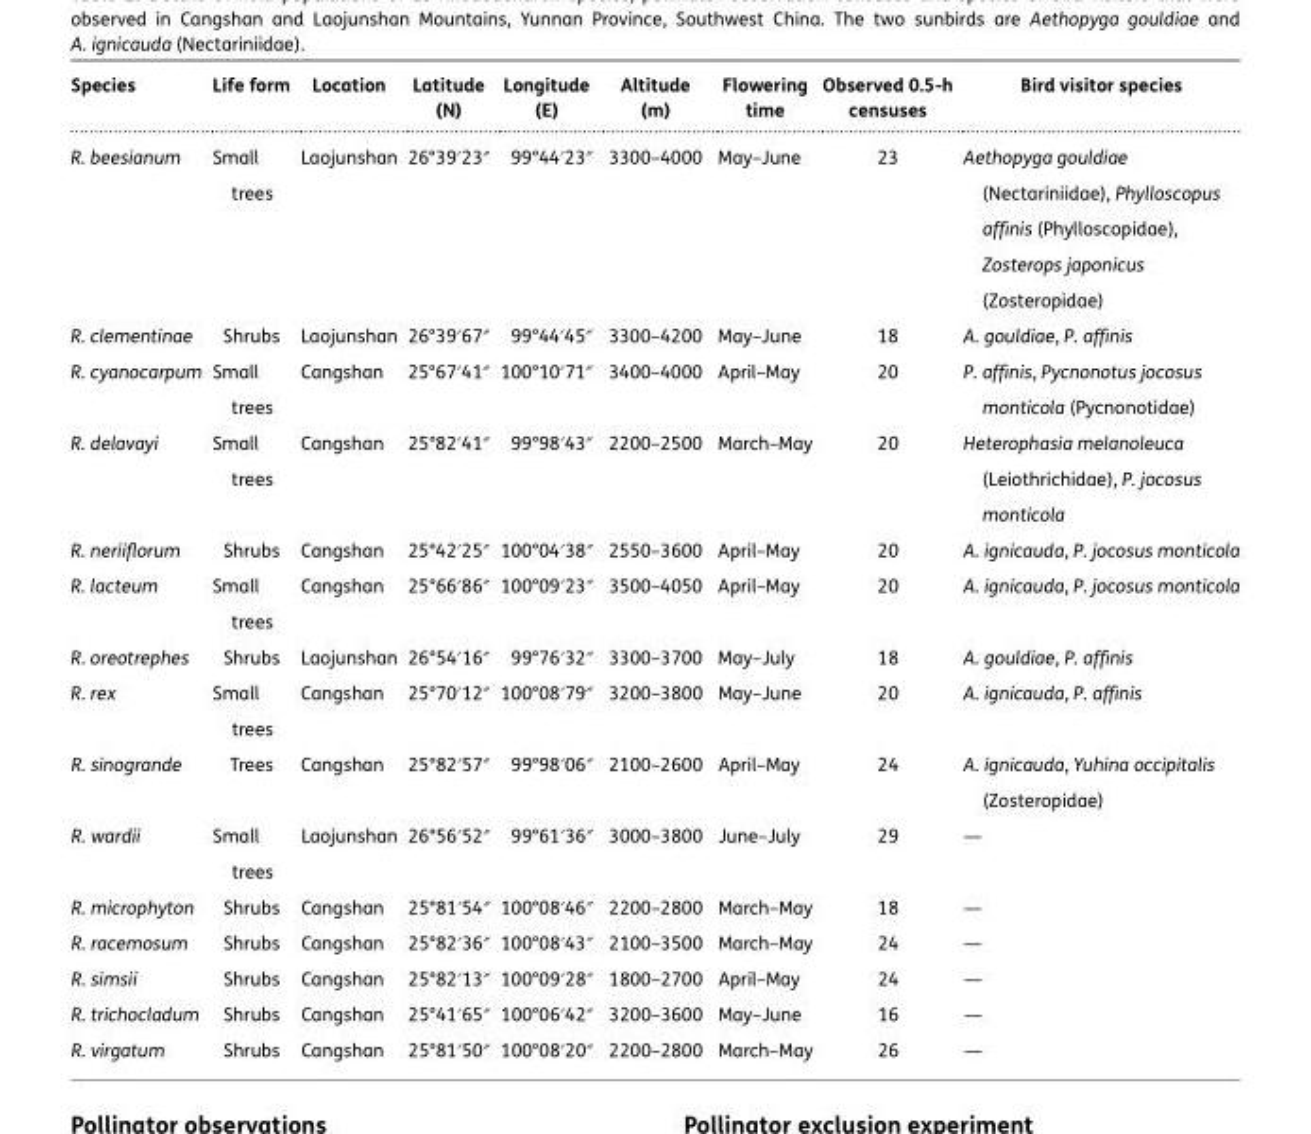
<table><thead><tr><td>Species</td><td>Life form</td><td>Location</td><td>Latitude (N)</td><td>Longitude (E)</td><td>Altitude (m)</td><td>Flowering time</td><td>Observed 0.5-h censuses</td><td>Bird visitor species</td></tr></thead><tbody><tr><td>R. beesianum</td><td>Small trees</td><td>Laojunshan</td><td>26°39′23″</td><td>99°44′23″</td><td>3300–4000</td><td>May–June</td><td>23</td><td>Aethopyga gouldiae (Nectariniidae), Phylloscopus affinis (Phylloscopidae), Zosterops japonicus (Zosteropidae)</td></tr><tr><td>R. clementinae</td><td>Shrubs</td><td>Laojunshan</td><td>26°39′67″</td><td>99°44′45″</td><td>3300–4200</td><td>May–June</td><td>18</td><td>A. gouldiae, P. affinis</td></tr><tr><td>R. cyanocarpum</td><td>Small trees</td><td>Cangshan</td><td>25°67′41″</td><td>100°10′71″</td><td>3400–4000</td><td>April–May</td><td>20</td><td>P. affinis, Pycnonotus jocosus monticola (Pycnonotidae)</td></tr><tr><td>R. delavayi</td><td>Small trees</td><td>Cangshan</td><td>25°82′41″</td><td>99°98′43″</td><td>2200–2500</td><td>March–May</td><td>20</td><td>Heterophasia melanoleuca (Leiothrichidae), P. jocosus monticola</td></tr><tr><td>R. neriiflorum</td><td>Shrubs</td><td>Cangshan</td><td>25°42′25″</td><td>100°04′38″</td><td>2550–3600</td><td>April–May</td><td>20</td><td>A. ignicauda, P. jocosus monticola</td></tr><tr><td>R. lacteum</td><td>Small trees</td><td>Cangshan</td><td>25°66′86″</td><td>100°09′23″</td><td>3500–4050</td><td>April–May</td><td>20</td><td>A. ignicauda, P. jocosus monticola</td></tr><tr><td>R. oreotrephes</td><td>Shrubs</td><td>Laojunshan</td><td>26°54′16″</td><td>99°76′32″</td><td>3300–3700</td><td>May–July</td><td>18</td><td>A. gouldiae, P. affinis</td></tr><tr><td>R. rex</td><td>Small trees</td><td>Cangshan</td><td>25°70′12″</td><td>100°08′79″</td><td>3200–3800</td><td>May–June</td><td>20</td><td>A. ignicauda, P. affinis</td></tr><tr><td>R. sinogrande</td><td>Trees</td><td>Cangshan</td><td>25°82′57″</td><td>99°98′06″</td><td>2100–2600</td><td>April–May</td><td>24</td><td>A. ignicauda, Yuhina occipitalis (Zosteropidae)</td></tr><tr><td>R. wardii</td><td>Small trees</td><td>Laojunshan</td><td>26°56′52″</td><td>99°61′36″</td><td>3000–3800</td><td>June–July</td><td>29</td><td>—</td></tr><tr><td>R. microphyton</td><td>Shrubs</td><td>Cangshan</td><td>25°81′54″</td><td>100°08′46″</td><td>2200–2800</td><td>March–May</td><td>18</td><td>—</td></tr><tr><td>R. racemosum</td><td>Shrubs</td><td>Cangshan</td><td>25°82′36″</td><td>100°08′43″</td><td>2100–3500</td><td>March–May</td><td>24</td><td>—</td></tr><tr><td>R. simsii</td><td>Shrubs</td><td>Cangshan</td><td>25°82′13″</td><td>100°09′28″</td><td>1800–2700</td><td>April–May</td><td>24</td><td>—</td></tr><tr><td>R. trichocladum</td><td>Shrubs</td><td>Cangshan</td><td>25°41′65″</td><td>100°06′42″</td><td>3200–3600</td><td>May–June</td><td>16</td><td>—</td></tr><tr><td>R. virgatum</td><td>Shrubs</td><td>Cangshan</td><td>25°81′50″</td><td>100°08′20″</td><td>2200–2800</td><td>March–May</td><td>26</td><td>—</td></tr></tbody></table>